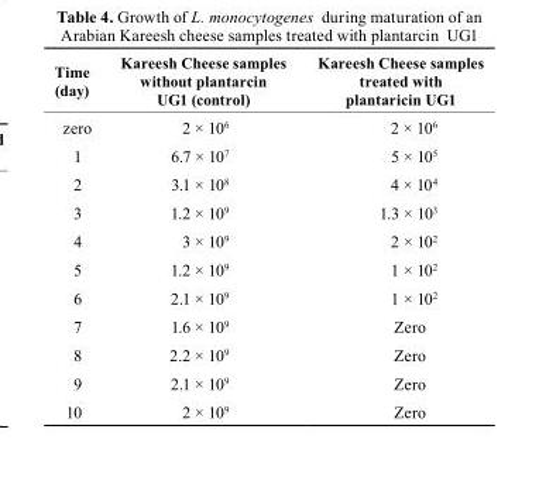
<table><thead><tr><td>time (day)</td><td>Kareesh cheese samples without plantarcin UG1 (control)</td><td>Kareesh cheese samples treated with plantaricin UG1</td></tr></thead><tbody><tr><td>zero</td><td>2 × 10<sup>6</sup></td><td>2 × 10<sup>6</sup></td></tr><tr><td>1</td><td>6.7 × 10<sup>7</sup></td><td>5 × 10<sup>5</sup></td></tr><tr><td>2</td><td>3.1 × 10<sup>8</sup></td><td>4 × 10<sup>4</sup></td></tr><tr><td>3</td><td>1.2 × 10<sup>9</sup></td><td>1.3 × 10<sup>3</sup></td></tr><tr><td>4</td><td>3 × 10<sup>9</sup></td><td>2 × 10<sup>2</sup></td></tr><tr><td>5</td><td>1.2 × 10<sup>9</sup></td><td>1 × 10<sup>2</sup></td></tr><tr><td>6</td><td>2.1 × 10<sup>9</sup></td><td>1 × 10<sup>2</sup></td></tr><tr><td>7</td><td>1.6 × 10<sup>9</sup></td><td>Zero</td></tr><tr><td>8</td><td>2.2 × 10<sup>9</sup></td><td>Zero</td></tr><tr><td>9</td><td>2.1 × 10<sup>9</sup></td><td>Zero</td></tr><tr><td>10</td><td>2 × 10<sup>9</sup></td><td>Zero</td></tr></tbody></table>